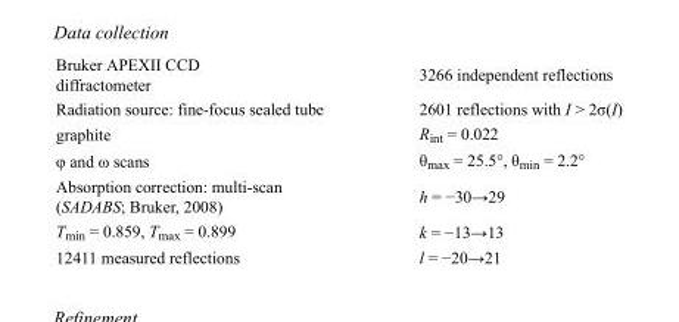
<table><tbody><tr><td>Bruker APEXII CCD diffractometer</td><td>3266 independent reflections</td></tr><tr><td>Radiation source: fine-focus sealed tube</td><td>2601 reflections with I &gt; 2σ(I)</td></tr><tr><td>graphite</td><td>R<sub>int</sub> = 0.022</td></tr><tr><td>φ and ω scans</td><td>θ<sub>max</sub> = 25.5°, θ<sub>min</sub> = 2.2°</td></tr><tr><td>Absorption correction: multi-scan (SADABS; Bruker, 2008)</td><td>h = −30→29</td></tr><tr><td>T<sub>min</sub> = 0.859, T<sub>max</sub> = 0.899</td><td>k = −13→13</td></tr><tr><td>12411 measured reflections</td><td>l = −20→21</td></tr></tbody></table>